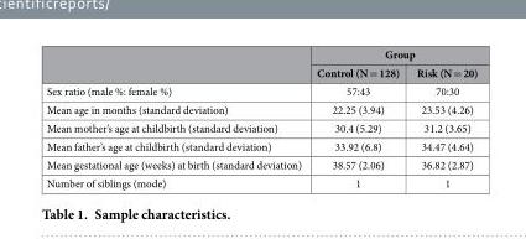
<table><thead><tr><td rowspan="2"></td><td colspan="2">Group</td></tr><tr><td>Control (N = 128)</td><td>Risk (N = 20)</td></tr></thead><tbody><tr><td>Sex ratio (male %: female %)</td><td>57:43</td><td>70:30</td></tr><tr><td>Mean age in months (standard deviation)</td><td>22.25 (3.94)</td><td>23.53 (4.26)</td></tr><tr><td>Mean mother’s age at childbirth (standard deviation)</td><td>30.4 (5.29)</td><td>31.2 (3.65)</td></tr><tr><td>Mean father’s age at childbirth (standard deviation)</td><td>33.92 (6.8)</td><td>34.47 (4.64)</td></tr><tr><td>Mean gestational age (weeks) at birth (standard deviation)</td><td>38.57 (2.06)</td><td>36.82 (2.87)</td></tr><tr><td>Number of siblings (mode)</td><td>1</td><td>1</td></tr></tbody></table>